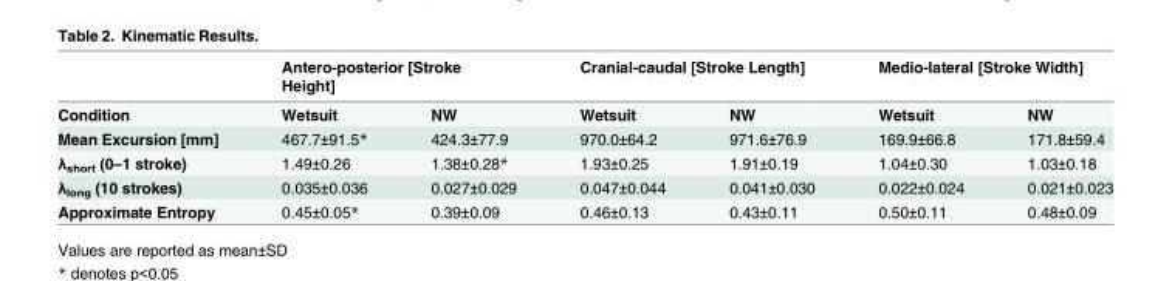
<table><thead><tr><td rowspan="2">Condition</td><td colspan="2">Antero-posterior [Stroke Height]</td><td colspan="2">Cranial-caudal [Stroke Length]</td><td colspan="2">Medio-lateral [Stroke Width]</td></tr><tr><td>Wetsuit</td><td>NW</td><td>Wetsuit</td><td>NW</td><td>Wetsuit</td><td>NW</td></tr></thead><tbody><tr><td>Mean Excursion [mm]</td><td>467.7±91.5*</td><td>424.3±77.9</td><td>970.0±64.2</td><td>971.6±76.9</td><td>169.9±66.8</td><td>171.8±59.4</td></tr><tr><td>λ<sub>short</sub> (0–1 stroke)</td><td>1.49±0.26</td><td>1.38±0.28*</td><td>1.93±0.25</td><td>1.91±0.19</td><td>1.04±0.30</td><td>1.03±0.18</td></tr><tr><td>λ<sub>long</sub> (10 strokes)</td><td>0.035±0.036</td><td>0.027±0.029</td><td>0.047±0.044</td><td>0.041±0.030</td><td>0.022±0.024</td><td>0.021±0.023</td></tr><tr><td>Approximate Entropy</td><td>0.45±0.05*</td><td>0.39±0.09</td><td>0.46±0.13</td><td>0.43±0.11</td><td>0.50±0.11</td><td>0.48±0.09</td></tr></tbody></table>